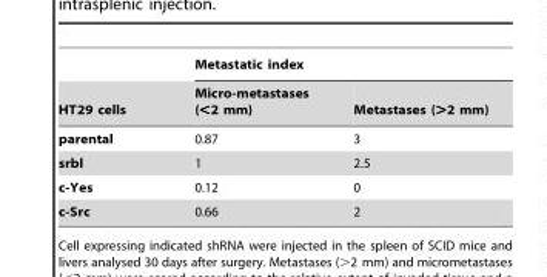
<table><thead><tr><td rowspan="2">HT29 cells</td><td colspan="2">Metastatic index</td></tr><tr><td>Micro-metastases (&lt;2 mm)</td><td>Metastases (&gt;2 mm)</td></tr></thead><tbody><tr><td>parental</td><td>0.87</td><td>3</td></tr><tr><td>srbl</td><td>1</td><td>2.5</td></tr><tr><td>c-Yes</td><td>0.12</td><td>0</td></tr><tr><td>c-Src</td><td>0.66</td><td>2</td></tr></tbody></table>